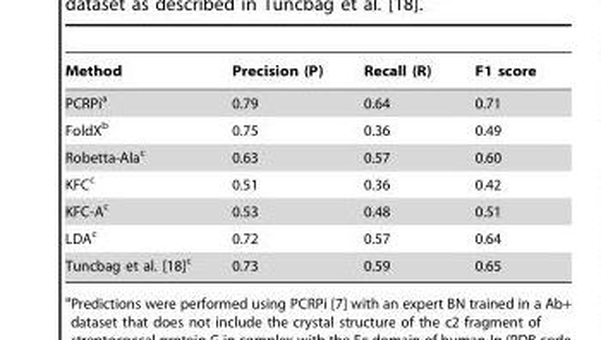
<table><thead><tr><td>Method</td><td>Precision (P)</td><td>Recall (R)</td><td>F1 score</td></tr></thead><tbody><tr><td>PCRPi<sup>a</sup></td><td>0.79</td><td>0.64</td><td>0.71</td></tr><tr><td>FoldX<sup>b</sup></td><td>0.75</td><td>0.36</td><td>0.49</td></tr><tr><td>Robetta-Ala<sup>c</sup></td><td>0.63</td><td>0.57</td><td>0.60</td></tr><tr><td>KFC<sup>c</sup></td><td>0.51</td><td>0.36</td><td>0.42</td></tr><tr><td>KFC-A<sup>c</sup></td><td>0.53</td><td>0.48</td><td>0.51</td></tr><tr><td>LDA<sup>c</sup></td><td>0.72</td><td>0.57</td><td>0.64</td></tr><tr><td>Tuncbag et al. [18]c</td><td>0.73</td><td>0.59</td><td>0.65</td></tr></tbody></table>